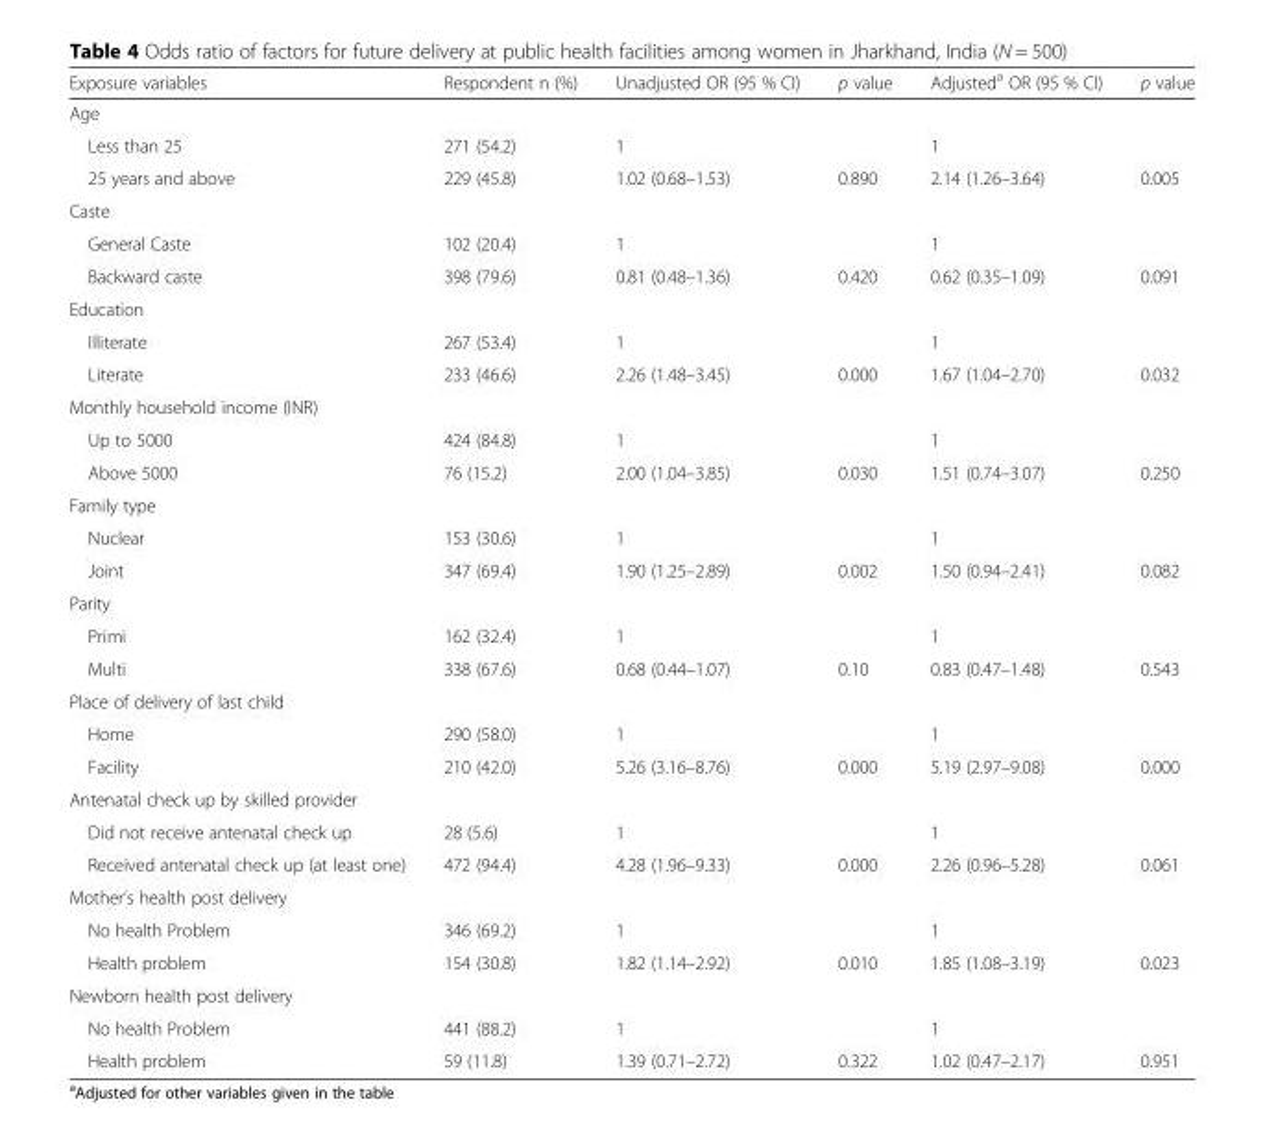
<table><thead><tr><td>Exposure variables</td><td>Respondent n (%)</td><td>Unadjusted OR (95 % CI)</td><td>p value</td><td>Adjusted<sup>a</sup> OR (95 % CI)</td><td>p value</td></tr></thead><tbody><tr><td colspan="6">Age</td></tr><tr><td>Less than 25</td><td>271 (54.2)</td><td>1</td><td></td><td>1</td><td></td></tr><tr><td>25 years and above</td><td>229 (45.8)</td><td>1.02 (0.68–1.53)</td><td>0.890</td><td>2.14 (1.26–3.64)</td><td>0.005</td></tr><tr><td colspan="6">Caste</td></tr><tr><td>General Caste</td><td>102 (20.4)</td><td>1</td><td></td><td>1</td><td></td></tr><tr><td>Backward caste</td><td>398 (79.6)</td><td>0.81 (0.48–1.36)</td><td>0.420</td><td>0.62 (0.35–1.09)</td><td>0.091</td></tr><tr><td colspan="6">Education</td></tr><tr><td>Illiterate</td><td>267 (53.4)</td><td>1</td><td></td><td>1</td><td></td></tr><tr><td>Literate</td><td>233 (46.6)</td><td>2.26 (1.48–3.45)</td><td>0.000</td><td>1.67 (1.04–2.70)</td><td>0.032</td></tr><tr><td colspan="6">Monthly household income (INR)</td></tr><tr><td>Up to 5000</td><td>424 (84.8)</td><td>1</td><td></td><td>1</td><td></td></tr><tr><td>Above 5000</td><td>76 (15.2)</td><td>2.00 (1.04–3.85)</td><td>0.030</td><td>1.51 (0.74–3.07)</td><td>0.250</td></tr><tr><td colspan="6">Family type</td></tr><tr><td>Nuclear</td><td>153 (30.6)</td><td>1</td><td></td><td>1</td><td></td></tr><tr><td>Joint</td><td>347 (69.4)</td><td>1.90 (1.25–2.89)</td><td>0.002</td><td>1.50 (0.94–2.41)</td><td>0.082</td></tr><tr><td colspan="6">Parity</td></tr><tr><td>Primi</td><td>162 (32.4)</td><td>1</td><td></td><td>1</td><td></td></tr><tr><td>Multi</td><td>338 (67.6)</td><td>0.68 (0.44–1.07)</td><td>0.10</td><td>0.83 (0.47–1.48)</td><td>0.543</td></tr><tr><td colspan="6">Place of delivery of last child</td></tr><tr><td>Home</td><td>290 (58.0)</td><td>1</td><td></td><td>1</td><td></td></tr><tr><td>Facility</td><td>210 (42.0)</td><td>5.26 (3.16–8.76)</td><td>0.000</td><td>5.19 (2.97–9.08)</td><td>0.000</td></tr><tr><td colspan="6">Antenatal check up by skilled provider</td></tr><tr><td>Did not receive antenatal check up</td><td>28 (5.6)</td><td>1</td><td></td><td>1</td><td></td></tr><tr><td>Received antenatal check up (at least one)</td><td>472 (94.4)</td><td>4.28 (1.96–9.33)</td><td>0.000</td><td>2.26 (0.96–5.28)</td><td>0.061</td></tr><tr><td colspan="6">Mother’s health post delivery</td></tr><tr><td>No health Problem</td><td>346 (69.2)</td><td>1</td><td></td><td>1</td><td></td></tr><tr><td>Health problem</td><td>154 (30.8)</td><td>1.82 (1.14–2.92)</td><td>0.010</td><td>1.85 (1.08–3.19)</td><td>0.023</td></tr><tr><td colspan="6">Newborn health post delivery</td></tr><tr><td>No health Problem</td><td>441 (88.2)</td><td>1</td><td></td><td>1</td><td></td></tr><tr><td>Health problem</td><td>59 (11.8)</td><td>1.39 (0.71–2.72)</td><td>0.322</td><td>1.02 (0.47–2.17)</td><td>0.951</td></tr></tbody></table>